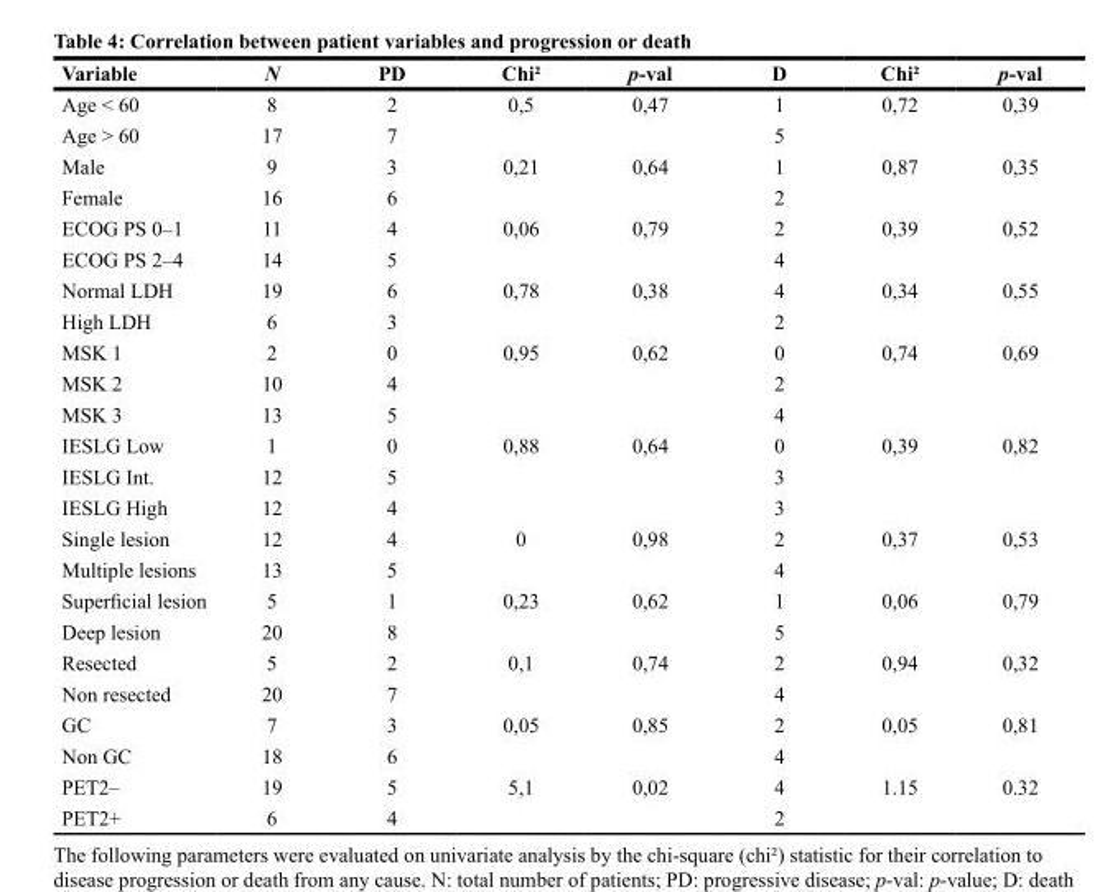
<table><thead><tr><td>Variable</td><td>N</td><td>PD</td><td>Chi²</td><td>p-val</td><td>D</td><td>Chi²</td><td>p-val</td></tr></thead><tbody><tr><td>Age &lt; 60</td><td>8</td><td>2</td><td>0,5</td><td>0,47</td><td>1</td><td>0,72</td><td>0,39</td></tr><tr><td>Age &gt; 60</td><td>17</td><td>7</td><td></td><td></td><td>5</td><td></td><td></td></tr><tr><td>Male</td><td>9</td><td>3</td><td>0,21</td><td>0,64</td><td>1</td><td>0,87</td><td>0,35</td></tr><tr><td>Female</td><td>16</td><td>6</td><td></td><td></td><td>2</td><td></td><td></td></tr><tr><td>ECOG PS 0–1</td><td>11</td><td>4</td><td>0,06</td><td>0,79</td><td>2</td><td>0,39</td><td>0,52</td></tr><tr><td>ECOG PS 2–4</td><td>14</td><td>5</td><td></td><td></td><td>4</td><td></td><td></td></tr><tr><td>Normal LDH</td><td>19</td><td>6</td><td>0,78</td><td>0,38</td><td>4</td><td>0,34</td><td>0,55</td></tr><tr><td>High LDH</td><td>6</td><td>3</td><td></td><td></td><td>2</td><td></td><td></td></tr><tr><td>MSK 1</td><td>2</td><td>0</td><td>0,95</td><td>0,62</td><td>0</td><td>0,74</td><td>0,69</td></tr><tr><td>MSK 2</td><td>10</td><td>4</td><td></td><td></td><td>2</td><td></td><td></td></tr><tr><td>MSK 3</td><td>13</td><td>5</td><td></td><td></td><td>4</td><td></td><td></td></tr><tr><td>IESLG Low</td><td>1</td><td>0</td><td>0,88</td><td>0,64</td><td>0</td><td>0,39</td><td>0,82</td></tr><tr><td>IESLG Int.</td><td>12</td><td>5</td><td></td><td></td><td>3</td><td></td><td></td></tr><tr><td>IESLG High</td><td>12</td><td>4</td><td></td><td></td><td>3</td><td></td><td></td></tr><tr><td>Single lesion</td><td>12</td><td>4</td><td>0</td><td>0,98</td><td>2</td><td>0,37</td><td>0,53</td></tr><tr><td>Multiple lesions</td><td>13</td><td>5</td><td></td><td></td><td>4</td><td></td><td></td></tr><tr><td>Superficial lesion</td><td>5</td><td>1</td><td>0,23</td><td>0,62</td><td>1</td><td>0,06</td><td>0,79</td></tr><tr><td>Deep lesion</td><td>20</td><td>8</td><td></td><td></td><td>5</td><td></td><td></td></tr><tr><td>Resected</td><td>5</td><td>2</td><td>0,1</td><td>0,74</td><td>2</td><td>0,94</td><td>0,32</td></tr><tr><td>Non resected</td><td>20</td><td>7</td><td></td><td></td><td>4</td><td></td><td></td></tr><tr><td>GC</td><td>7</td><td>3</td><td>0,05</td><td>0,85</td><td>2</td><td>0,05</td><td>0,81</td></tr><tr><td>Non GC</td><td>18</td><td>6</td><td></td><td></td><td>4</td><td></td><td></td></tr><tr><td>PET2–</td><td>19</td><td>5</td><td>5,1</td><td>0,02</td><td>4</td><td>1.15</td><td>0.32</td></tr><tr><td>PET2+</td><td>6</td><td>4</td><td></td><td></td><td>2</td><td></td><td></td></tr></tbody></table>